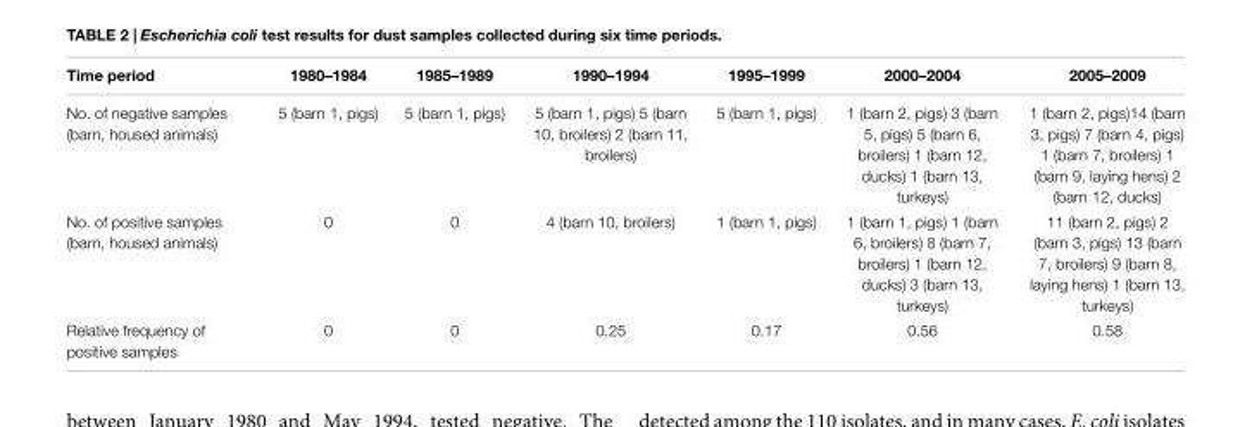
<table><thead><tr><td>Time period</td><td>1980–1984</td><td>1985–1989</td><td>1990–1994</td><td>1995–1999</td><td>2000–2004</td><td>2005–2009</td></tr></thead><tbody><tr><td>No. of negative samples (barn, housed animals)</td><td>5 (barn 1, pigs)</td><td>5 (barn 1, pigs)</td><td>5 (barn 1, pigs) 5 (barn 10, broilers) 2 (barn 11, broilers)</td><td>5 (barn 1, pigs)</td><td>1 (barn 2, pigs) 3 (barn 5, pigs) 5 (barn 6, broilers) 1 (barn 12, ducks) 1 (barn 13, turkeys)</td><td>1 (barn 2, pigs)14 (barn 3, pigs) 7 (barn 4, pigs) 1 (barn 7, broilers) 1 (barn 9, laying hens) 2 (barn 12, ducks)</td></tr><tr><td>No. of positive samples (barn, housed animals)</td><td>0</td><td>0</td><td>4 (barn 10, broilers)</td><td>1 (barn 1, pigs)</td><td>1 (barn 1, pigs) 1 (barn 6, broilers) 8 (barn 7, broilers) 1 (barn 12, ducks) 3 (barn 13, turkeys)</td><td>11 (barn 2, pigs) 2 (barn 3, pigs) 13 (barn 7, broilers) 9 (barn 8, laying hens) 1 (barn 13, turkeys)</td></tr><tr><td>Relative frequency of positive samples</td><td>0</td><td>0</td><td>0.25</td><td>0.17</td><td>0.56</td><td>0.58</td></tr></tbody></table>